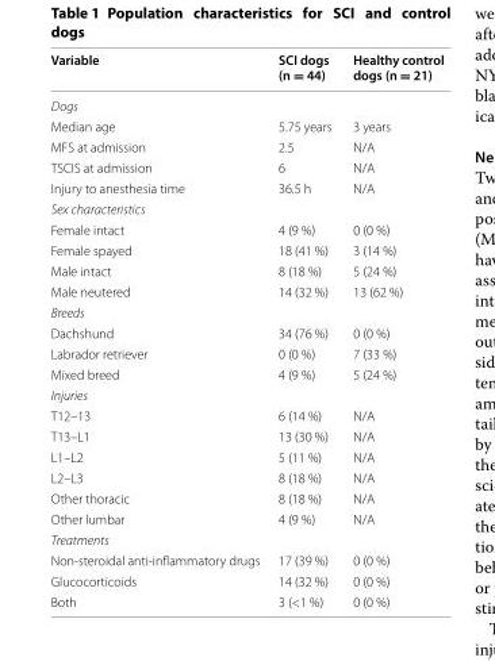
<table><thead><tr><td>Variable</td><td>SCI dogs (n = 44)</td><td>Healthy control dogs (n = 21)</td></tr></thead><tbody><tr><td colspan="3">Dogs</td></tr><tr><td>Median age</td><td>5.75 years</td><td>3 years</td></tr><tr><td>MFS at admission</td><td>2.5</td><td>N/A</td></tr><tr><td>TSCIS at admission</td><td>6</td><td>N/A</td></tr><tr><td>Injury to anesthesia time</td><td>36.5 h</td><td>N/A</td></tr><tr><td colspan="3">Sex characteristics</td></tr><tr><td>Female intact</td><td>4 (9 %)</td><td>0 (0 %)</td></tr><tr><td>Female spayed</td><td>18 (41 %)</td><td>3 (14 %)</td></tr><tr><td>Male intact</td><td>8 (18 %)</td><td>5 (24 %)</td></tr><tr><td>Male neutered</td><td>14 (32 %)</td><td>13 (62 %)</td></tr><tr><td colspan="3">Breeds</td></tr><tr><td>Dachshund</td><td>34 (76 %)</td><td>0 (0 %)</td></tr><tr><td>Labrador retriever</td><td>0 (0 %)</td><td>7 (33 %)</td></tr><tr><td>Mixed breed</td><td>4 (9 %)</td><td>5 (24 %)</td></tr><tr><td colspan="3">Injuries</td></tr><tr><td>T12–13</td><td>6 (14 %)</td><td>N/A</td></tr><tr><td>T13–L1</td><td>13 (30 %)</td><td>N/A</td></tr><tr><td>L1–L2</td><td>5 (11 %)</td><td>N/A</td></tr><tr><td>L2–L3</td><td>8 (18 %)</td><td>N/A</td></tr><tr><td>Other thoracic</td><td>8 (18 %)</td><td>N/A</td></tr><tr><td>Other lumbar</td><td>4 (9 %)</td><td>N/A</td></tr><tr><td colspan="3">Treatments</td></tr><tr><td>Non-steroidal anti-inflammatory drugs</td><td>17 (39 %)</td><td>0 (0 %)</td></tr><tr><td>Glucocorticoids</td><td>14 (32 %)</td><td>0 (0 %)</td></tr><tr><td>Both</td><td>3 (&lt;1 %)</td><td>0 (0 %)</td></tr></tbody></table>